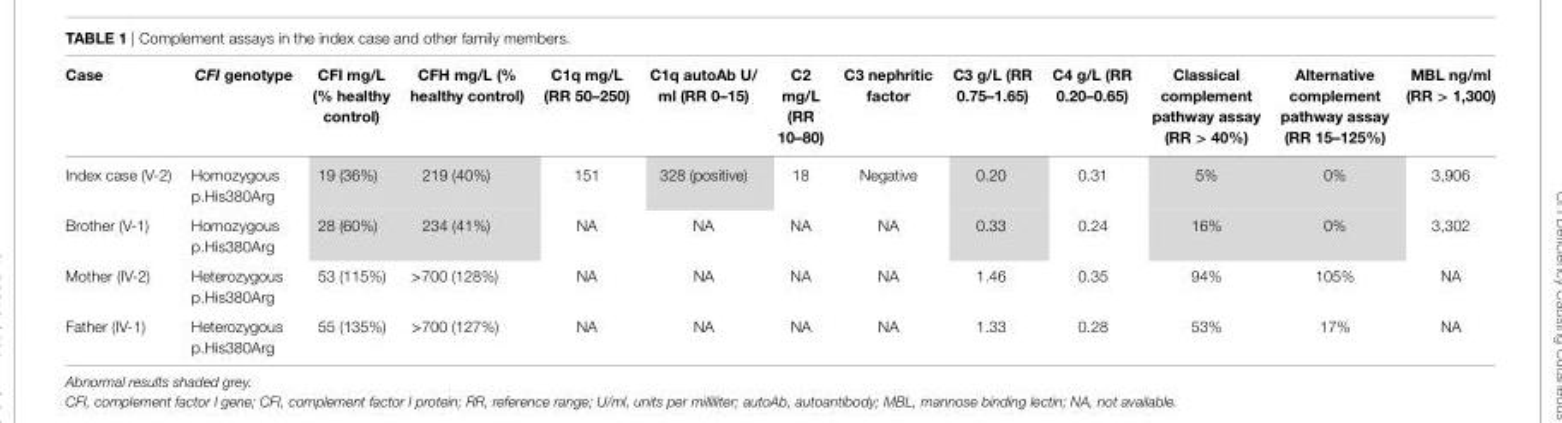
<table><thead><tr><td>Case</td><td>CFI genotype</td><td>CFI mg/l (% healthy control)</td><td>CFH mg/l (% healthy control)</td><td>C1q mg/l (RR 50–250)</td><td>C1q autoab U/ ml (RR 0–15)</td><td>C2 mg/l (RR 10–80)</td><td>C3 nephritic factor</td><td>C3 g/l (RR 0.75–1.65)</td><td>C4 g/l (RR 0.20–0.65)</td><td>Classical complement pathway assay (RR &gt; 40%)</td><td>alternative complement pathway assay (RR 15–125%)</td><td>MBl ng/ml (RR &gt; 1,300)</td></tr></thead><tbody><tr><td>Index case (V-2)</td><td>Homozygous p.His380Arg</td><td>19 (36%)</td><td>219 (40%)</td><td>151</td><td>328 (positive)</td><td>18</td><td>Negative</td><td>0.20</td><td>0.31</td><td>5%</td><td>0%</td><td>3,906</td></tr><tr><td>Brother (V-1)</td><td>Homozygous p.His380Arg</td><td>28 (60%)</td><td>234 (41%)</td><td>NA</td><td>NA</td><td>NA</td><td>NA</td><td>0.33</td><td>0.24</td><td>16%</td><td>0%</td><td>3,302</td></tr><tr><td>Mother (IV-2)</td><td>Heterozygous p.His380Arg</td><td>53 (115%)</td><td>&gt;700 (128%)</td><td>NA</td><td>NA</td><td>NA</td><td>NA</td><td>1.46</td><td>0.35</td><td>94%</td><td>105%</td><td>NA</td></tr><tr><td>Father (IV-1)</td><td>Heterozygous p.His380Arg</td><td>55 (135%)</td><td>&gt;700 (127%)</td><td>NA</td><td>NA</td><td>NA</td><td>NA</td><td>1.33</td><td>0.28</td><td>53%</td><td>17%</td><td>NA</td></tr></tbody></table>